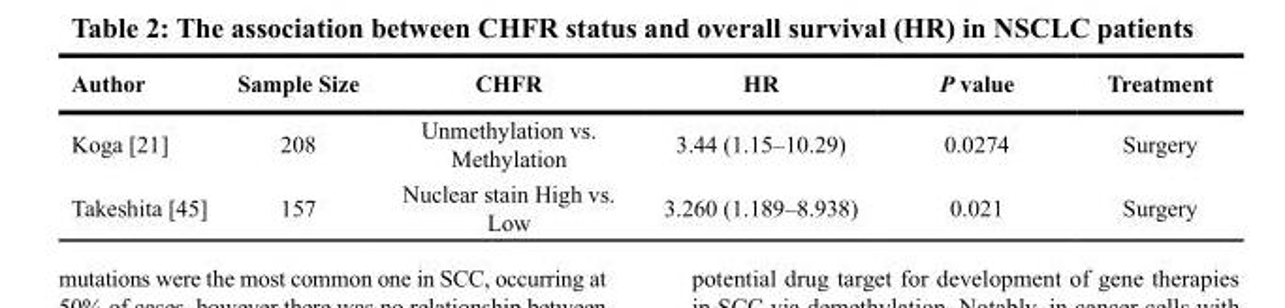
<table><thead><tr><td>Author</td><td>Sample Size</td><td>CHFR</td><td>HR</td><td>P value</td><td>Treatment</td></tr></thead><tbody><tr><td>Koga [21]</td><td>208</td><td>Unmethylation vs. Methylation</td><td>3.44 (1.15–10.29)</td><td>0.0274</td><td>Surgery</td></tr><tr><td>Takeshita [45]</td><td>157</td><td>Nuclear stain High vs. Low</td><td>3.260 (1.189–8.938)</td><td>0.021</td><td>Surgery</td></tr></tbody></table>